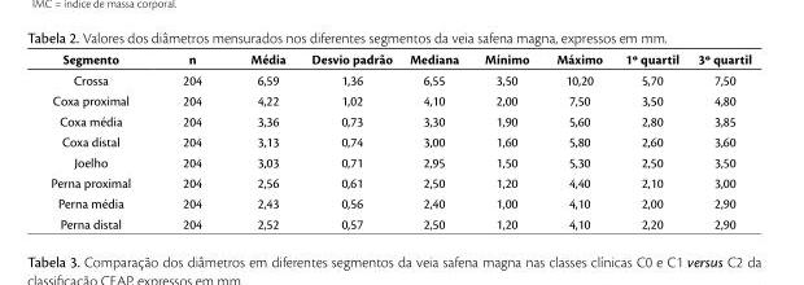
<table><thead><tr><td>Segmento</td><td>n</td><td>Média</td><td>Desvio padrão</td><td>Mediana</td><td>Mínimo</td><td>Máximo</td><td>1º quartil</td><td>3º quartil</td></tr></thead><tbody><tr><td>Crossa</td><td>204</td><td>6,59</td><td>1,36</td><td>6,55</td><td>3,50</td><td>10,20</td><td>5,70</td><td>7,50</td></tr><tr><td>Coxa proximal</td><td>204</td><td>4,22</td><td>1,02</td><td>4,10</td><td>2,00</td><td>7,50</td><td>3,50</td><td>4,80</td></tr><tr><td>Coxa média</td><td>204</td><td>3,36</td><td>0,73</td><td>3,30</td><td>1,90</td><td>5,60</td><td>2,80</td><td>3,85</td></tr><tr><td>Coxa distal</td><td>204</td><td>3,13</td><td>0,74</td><td>3,00</td><td>1,60</td><td>5,80</td><td>2,60</td><td>3,60</td></tr><tr><td>Joelho</td><td>204</td><td>3,03</td><td>0,71</td><td>2,95</td><td>1,50</td><td>5,30</td><td>2,50</td><td>3,50</td></tr><tr><td>Perna proximal</td><td>204</td><td>2,56</td><td>0,61</td><td>2,50</td><td>1,20</td><td>4,40</td><td>2,10</td><td>3,00</td></tr><tr><td>Perna média</td><td>204</td><td>2,43</td><td>0,56</td><td>2,40</td><td>1,00</td><td>4,10</td><td>2,00</td><td>2,90</td></tr><tr><td>Perna distal</td><td>204</td><td>2,52</td><td>0,57</td><td>2,50</td><td>1,20</td><td>4,10</td><td>2,20</td><td>2,90</td></tr></tbody></table>